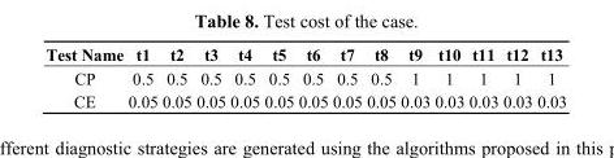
<table><thead><tr><td>Test Name</td><td>t1</td><td>t2</td><td>t3</td><td>t4</td><td>t5</td><td>t6</td><td>t7</td><td>t8</td><td>t9</td><td>t10</td><td>t11</td><td>t12</td><td>t13</td></tr></thead><tbody><tr><td>CP</td><td>0.5</td><td>0.5</td><td>0.5</td><td>0.5</td><td>0.5</td><td>0.5</td><td>0.5</td><td>0.5</td><td>1</td><td>1</td><td>1</td><td>1</td><td>1</td></tr><tr><td>CE</td><td>0.05</td><td>0.05</td><td>0.05</td><td>0.05</td><td>0.05</td><td>0.05</td><td>0.05</td><td>0.05</td><td>0.03</td><td>0.03</td><td>0.03</td><td>0.03</td><td>0.03</td></tr></tbody></table>